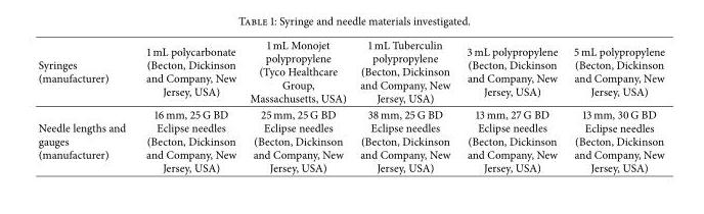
<table><tbody><tr><td>Syringes (manufacturer)</td><td>1 mL polycarbonate (Becton, Dickinson and Company, New Jersey, USA)</td><td>1 mL Monojet polypropylene (Tyco Healthcare Group, Massachusetts, USA)</td><td>1 mL Tuberculin polypropylene (Becton, Dickinson and Company, New Jersey, USA)</td><td>3 mL polypropylene (Becton, Dickinson and Company, New Jersey, USA)</td><td>5 mL polypropylene (Becton, Dickinson and Company, New Jersey, USA)</td></tr><tr><td>Needle lengths and gauges (manufacturer)</td><td>16 mm, 25 G BD Eclipse needles (Becton, Dickinson and Company, New Jersey, USA)</td><td>25 mm, 25 G BD Eclipse needles (Becton, Dickinson and Company, New Jersey, USA)</td><td>38 mm, 25 G BD Eclipse needles (Becton, Dickinson and Company, New Jersey, USA)</td><td>13 mm, 27 G BD Eclipse needles (Becton, Dickinson and Company, New Jersey, USA)</td><td>13 mm, 30 G BD Eclipse needles (Becton, Dickinson and Company, New Jersey, USA)</td></tr></tbody></table>